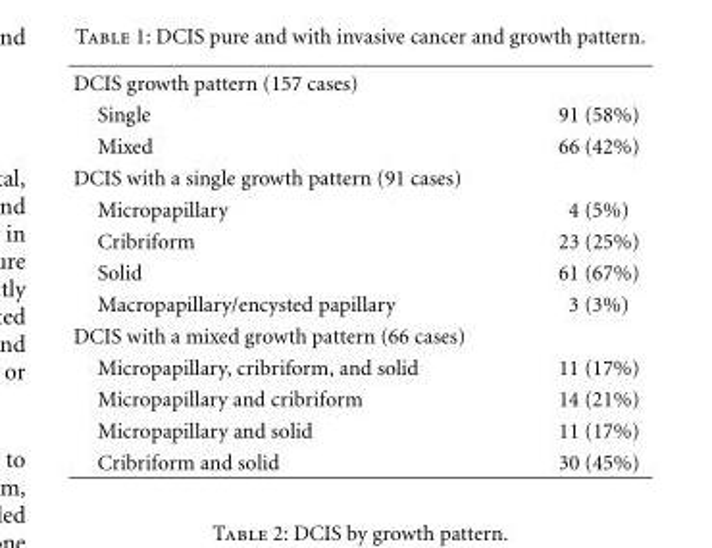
<table><tbody><tr><td colspan="2">DCIS growth pattern (157 cases)</td></tr><tr><td>Single</td><td>91 (58%)</td></tr><tr><td>Mixed</td><td>66 (42%)</td></tr><tr><td colspan="2">DCIS with a single growth pattern (91 cases)</td></tr><tr><td>Micropapillary</td><td>4 (5%)</td></tr><tr><td>Cribriform</td><td>23 (25%)</td></tr><tr><td>Solid</td><td>61 (67%)</td></tr><tr><td>Macropapillary/encysted papillary</td><td>3 (3%)</td></tr><tr><td colspan="2">DCIS with a mixed growth pattern (66 cases)</td></tr><tr><td>Micropapillary, cribriform, and solid</td><td>11 (17%)</td></tr><tr><td>Micropapillary and cribriform</td><td>14 (21%)</td></tr><tr><td>Micropapillary and solid</td><td>11 (17%)</td></tr><tr><td>Cribriform and solid</td><td>30 (45%)</td></tr></tbody></table>